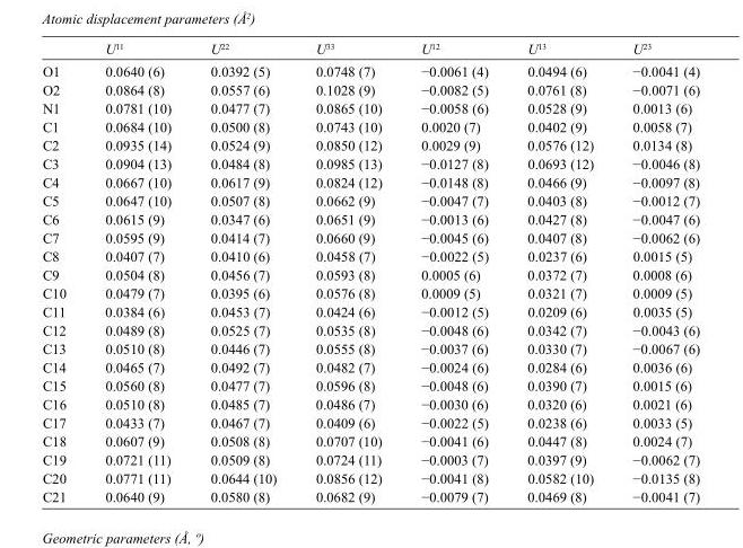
<table><thead><tr><td></td><td>U<sup>11</sup></td><td>U<sup>22</sup></td><td>U<sup>33</sup></td><td>U<sup>12</sup></td><td>U<sup>13</sup></td><td>U<sup>23</sup></td></tr></thead><tbody><tr><td>O1</td><td>0.0640 (6)</td><td>0.0392 (5)</td><td>0.0748 (7)</td><td>−0.0061 (4)</td><td>0.0494 (6)</td><td>−0.0041 (4)</td></tr><tr><td>O2</td><td>0.0864 (8)</td><td>0.0557 (6)</td><td>0.1028 (9)</td><td>−0.0082 (5)</td><td>0.0761 (8)</td><td>−0.0071 (6)</td></tr><tr><td>N1</td><td>0.0781 (10)</td><td>0.0477 (7)</td><td>0.0865 (10)</td><td>−0.0058 (6)</td><td>0.0528 (9)</td><td>0.0013 (6)</td></tr><tr><td>C1</td><td>0.0684 (10)</td><td>0.0500 (8)</td><td>0.0743 (10)</td><td>0.0020 (7)</td><td>0.0402 (9)</td><td>0.0058 (7)</td></tr><tr><td>C2</td><td>0.0935 (14)</td><td>0.0524 (9)</td><td>0.0850 (12)</td><td>0.0029 (9)</td><td>0.0576 (12)</td><td>0.0134 (8)</td></tr><tr><td>C3</td><td>0.0904 (13)</td><td>0.0484 (8)</td><td>0.0985 (13)</td><td>−0.0127 (8)</td><td>0.0693 (12)</td><td>−0.0046 (8)</td></tr><tr><td>C4</td><td>0.0667 (10)</td><td>0.0617 (9)</td><td>0.0824 (12)</td><td>−0.0148 (8)</td><td>0.0466 (9)</td><td>−0.0097 (8)</td></tr><tr><td>C5</td><td>0.0647 (10)</td><td>0.0507 (8)</td><td>0.0662 (9)</td><td>−0.0047 (7)</td><td>0.0403 (8)</td><td>−0.0012 (7)</td></tr><tr><td>C6</td><td>0.0615 (9)</td><td>0.0347 (6)</td><td>0.0651 (9)</td><td>−0.0013 (6)</td><td>0.0427 (8)</td><td>−0.0047 (6)</td></tr><tr><td>C7</td><td>0.0595 (9)</td><td>0.0414 (7)</td><td>0.0660 (9)</td><td>−0.0045 (6)</td><td>0.0407 (8)</td><td>−0.0062 (6)</td></tr><tr><td>C8</td><td>0.0407 (7)</td><td>0.0410 (6)</td><td>0.0458 (7)</td><td>−0.0022 (5)</td><td>0.0237 (6)</td><td>0.0015 (5)</td></tr><tr><td>C9</td><td>0.0504 (8)</td><td>0.0456 (7)</td><td>0.0593 (8)</td><td>0.0005 (6)</td><td>0.0372 (7)</td><td>0.0008 (6)</td></tr><tr><td>C10</td><td>0.0479 (7)</td><td>0.0395 (6)</td><td>0.0576 (8)</td><td>0.0009 (5)</td><td>0.0321 (7)</td><td>0.0009 (5)</td></tr><tr><td>C11</td><td>0.0384 (6)</td><td>0.0453 (7)</td><td>0.0424 (6)</td><td>−0.0012 (5)</td><td>0.0209 (6)</td><td>0.0035 (5)</td></tr><tr><td>C12</td><td>0.0489 (8)</td><td>0.0525 (7)</td><td>0.0535 (8)</td><td>−0.0048 (6)</td><td>0.0342 (7)</td><td>−0.0043 (6)</td></tr><tr><td>C13</td><td>0.0510 (8)</td><td>0.0446 (7)</td><td>0.0555 (8)</td><td>−0.0037 (6)</td><td>0.0330 (7)</td><td>−0.0067 (6)</td></tr><tr><td>C14</td><td>0.0465 (7)</td><td>0.0492 (7)</td><td>0.0482 (7)</td><td>−0.0024 (6)</td><td>0.0284 (6)</td><td>0.0036 (6)</td></tr><tr><td>C15</td><td>0.0560 (8)</td><td>0.0477 (7)</td><td>0.0596 (8)</td><td>−0.0048 (6)</td><td>0.0390 (7)</td><td>0.0015 (6)</td></tr><tr><td>C16</td><td>0.0510 (8)</td><td>0.0485 (7)</td><td>0.0486 (7)</td><td>−0.0030 (6)</td><td>0.0320 (6)</td><td>0.0021 (6)</td></tr><tr><td>C17</td><td>0.0433 (7)</td><td>0.0467 (7)</td><td>0.0409 (6)</td><td>−0.0022 (5)</td><td>0.0238 (6)</td><td>0.0033 (5)</td></tr><tr><td>C18</td><td>0.0607 (9)</td><td>0.0508 (8)</td><td>0.0707 (10)</td><td>−0.0041 (6)</td><td>0.0447 (8)</td><td>0.0024 (7)</td></tr><tr><td>C19</td><td>0.0721 (11)</td><td>0.0509 (8)</td><td>0.0724 (11)</td><td>−0.0003 (7)</td><td>0.0397 (9)</td><td>−0.0062 (7)</td></tr><tr><td>C20</td><td>0.0771 (11)</td><td>0.0644 (10)</td><td>0.0856 (12)</td><td>−0.0041 (8)</td><td>0.0582 (10)</td><td>−0.0135 (8)</td></tr><tr><td>C21</td><td>0.0640 (9)</td><td>0.0580 (8)</td><td>0.0682 (9)</td><td>−0.0079 (7)</td><td>0.0469 (8)</td><td>−0.0041 (7)</td></tr></tbody></table>